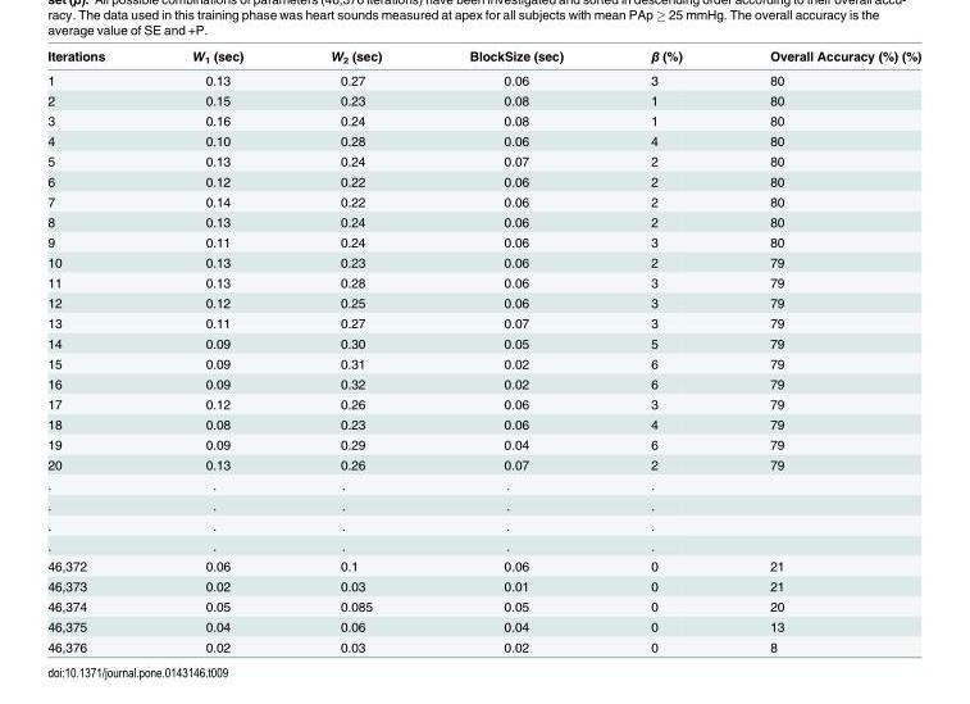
<table><thead><tr><td>Iterations</td><td>W<sub>1</sub> (sec)</td><td>W<sub>2</sub> (sec)</td><td>BlockSize (sec)</td><td>β (%)</td><td>Overall Accuracy (%) (%)</td></tr></thead><tbody><tr><td>1</td><td>0.13</td><td>0.27</td><td>0.06</td><td>3</td><td>80</td></tr><tr><td>2</td><td>0.15</td><td>0.23</td><td>0.08</td><td>1</td><td>80</td></tr><tr><td>3</td><td>0.16</td><td>0.24</td><td>0.08</td><td>1</td><td>80</td></tr><tr><td>4</td><td>0.10</td><td>0.28</td><td>0.06</td><td>4</td><td>80</td></tr><tr><td>5</td><td>0.13</td><td>0.24</td><td>0.07</td><td>2</td><td>80</td></tr><tr><td>6</td><td>0.12</td><td>0.22</td><td>0.06</td><td>2</td><td>80</td></tr><tr><td>7</td><td>0.14</td><td>0.22</td><td>0.06</td><td>2</td><td>80</td></tr><tr><td>8</td><td>0.13</td><td>0.24</td><td>0.06</td><td>2</td><td>80</td></tr><tr><td>9</td><td>0.11</td><td>0.24</td><td>0.06</td><td>3</td><td>80</td></tr><tr><td>10</td><td>0.13</td><td>0.23</td><td>0.06</td><td>2</td><td>79</td></tr><tr><td>11</td><td>0.13</td><td>0.28</td><td>0.06</td><td>3</td><td>79</td></tr><tr><td>12</td><td>0.12</td><td>0.25</td><td>0.06</td><td>3</td><td>79</td></tr><tr><td>13</td><td>0.11</td><td>0.27</td><td>0.07</td><td>3</td><td>79</td></tr><tr><td>14</td><td>0.09</td><td>0.30</td><td>0.05</td><td>5</td><td>79</td></tr><tr><td>15</td><td>0.09</td><td>0.31</td><td>0.02</td><td>6</td><td>79</td></tr><tr><td>16</td><td>0.09</td><td>0.32</td><td>0.02</td><td>6</td><td>79</td></tr><tr><td>17</td><td>0.12</td><td>0.26</td><td>0.06</td><td>3</td><td>79</td></tr><tr><td>18</td><td>0.08</td><td>0.23</td><td>0.06</td><td>4</td><td>79</td></tr><tr><td>19</td><td>0.09</td><td>0.29</td><td>0.04</td><td>6</td><td>79</td></tr><tr><td>20</td><td>0.13</td><td>0.26</td><td>0.07</td><td>2</td><td>79</td></tr><tr><td>.</td><td>.</td><td>.</td><td>.</td><td>.</td><td></td></tr><tr><td>.</td><td>.</td><td>.</td><td>.</td><td>.</td><td></td></tr><tr><td>.</td><td>.</td><td>.</td><td>.</td><td>.</td><td></td></tr><tr><td>.</td><td>.</td><td>.</td><td>.</td><td>.</td><td></td></tr><tr><td>46,372</td><td>0.06</td><td>0.1</td><td>0.06</td><td>0</td><td>21</td></tr><tr><td>46,373</td><td>0.02</td><td>0.03</td><td>0.01</td><td>0</td><td>21</td></tr><tr><td>46,374</td><td>0.05</td><td>0.085</td><td>0.05</td><td>0</td><td>20</td></tr><tr><td>46,375</td><td>0.04</td><td>0.06</td><td>0.04</td><td>0</td><td>13</td></tr><tr><td>46,376</td><td>0.02</td><td>0.03</td><td>0.02</td><td>0</td><td>8</td></tr></tbody></table>